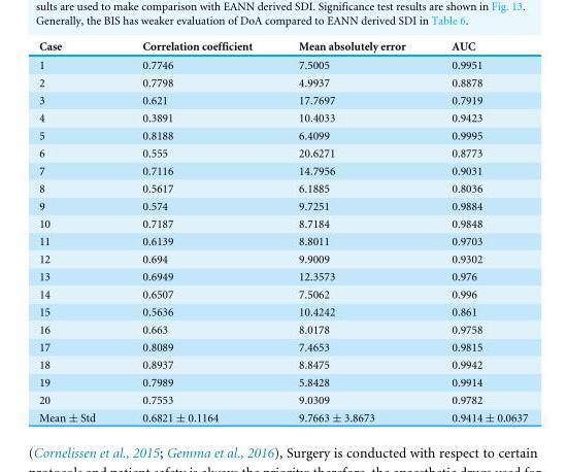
<table><thead><tr><td>Case</td><td>Correlation coefficient</td><td>Mean absolutely error</td><td>AUC</td></tr></thead><tbody><tr><td>1</td><td>0.7746</td><td>7.5005</td><td>0.9951</td></tr><tr><td>2</td><td>0.7798</td><td>4.9937</td><td>0.8878</td></tr><tr><td>3</td><td>0.621</td><td>17.7697</td><td>0.7919</td></tr><tr><td>4</td><td>0.3891</td><td>10.4033</td><td>0.9423</td></tr><tr><td>5</td><td>0.8188</td><td>6.4099</td><td>0.9995</td></tr><tr><td>6</td><td>0.555</td><td>20.6271</td><td>0.8773</td></tr><tr><td>7</td><td>0.7116</td><td>14.7956</td><td>0.9031</td></tr><tr><td>8</td><td>0.5617</td><td>6.1885</td><td>0.8036</td></tr><tr><td>9</td><td>0.574</td><td>9.7251</td><td>0.9884</td></tr><tr><td>10</td><td>0.7187</td><td>8.7184</td><td>0.9848</td></tr><tr><td>11</td><td>0.6139</td><td>8.8011</td><td>0.9703</td></tr><tr><td>12</td><td>0.694</td><td>9.9009</td><td>0.9302</td></tr><tr><td>13</td><td>0.6949</td><td>12.3573</td><td>0.976</td></tr><tr><td>14</td><td>0.6507</td><td>7.5062</td><td>0.996</td></tr><tr><td>15</td><td>0.5636</td><td>10.4242</td><td>0.861</td></tr><tr><td>16</td><td>0.663</td><td>8.0178</td><td>0.9758</td></tr><tr><td>17</td><td>0.8089</td><td>7.4653</td><td>0.9815</td></tr><tr><td>18</td><td>0.8937</td><td>8.8475</td><td>0.9942</td></tr><tr><td>19</td><td>0.7989</td><td>5.8428</td><td>0.9914</td></tr><tr><td>20</td><td>0.7553</td><td>9.0309</td><td>0.9782</td></tr><tr><td>Mean ± Std</td><td>0.6821 ± 0.1164</td><td>9.7663 ± 3.8673</td><td>0.9414 ± 0.0637</td></tr></tbody></table>